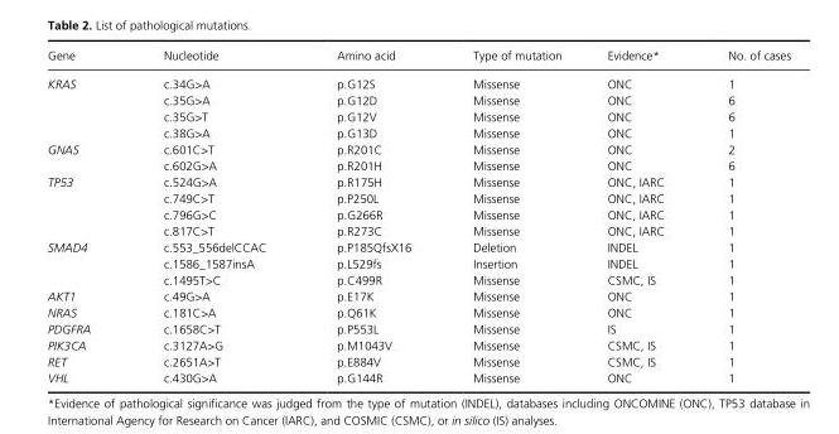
<table><thead><tr><td>Gene</td><td>Nucleotide</td><td>Amino acid</td><td>Type of mutation</td><td>Evidence*</td><td>No. of cases</td></tr></thead><tbody><tr><td rowspan="4">KRAS</td><td>c.34G&gt;A</td><td>p.G12S</td><td>Missense</td><td>ONC</td><td>1</td></tr><tr><td>c.35G&gt;A</td><td>p.G12D</td><td>Missense</td><td>ONC</td><td>6</td></tr><tr><td>c.35G&gt;T</td><td>p.G12V</td><td>Missense</td><td>ONC</td><td>6</td></tr><tr><td>c.38G&gt;A</td><td>p.G13D</td><td>Missense</td><td>ONC</td><td>1</td></tr><tr><td rowspan="2">GNAS</td><td>c.601C&gt;T</td><td>p.R201C</td><td>Missense</td><td>ONC</td><td>2</td></tr><tr><td>c.602G&gt;A</td><td>p.R201H</td><td>Missense</td><td>ONC</td><td>6</td></tr><tr><td rowspan="4">TP53</td><td>c.524G&gt;A</td><td>p.R175H</td><td>Missense</td><td>ONC, IARC</td><td>1</td></tr><tr><td>c.749C&gt;T</td><td>p.P250L</td><td>Missense</td><td>ONC, IARC</td><td>1</td></tr><tr><td>c.796G&gt;C</td><td>p.G266R</td><td>Missense</td><td>ONC, IARC</td><td>1</td></tr><tr><td>c.817C&gt;T</td><td>p.R273C</td><td>Missense</td><td>ONC, IARC</td><td>1</td></tr><tr><td rowspan="3">SMAD4</td><td>c.553_556delCCAC</td><td>p.P185QfsX16</td><td>Deletion</td><td>INDEL</td><td>1</td></tr><tr><td>c.1586_1587insA</td><td>p.L529fs</td><td>Insertion</td><td>INDEL</td><td>1</td></tr><tr><td>c.1495T&gt;C</td><td>p.C499R</td><td>Missense</td><td>CSMC, IS</td><td>1</td></tr><tr><td>AKT1</td><td>c.49G&gt;A</td><td>p.E17K</td><td>Missense</td><td>ONC</td><td>1</td></tr><tr><td>NRAS</td><td>c.181C&gt;A</td><td>p.Q61K</td><td>Missense</td><td>ONC</td><td>1</td></tr><tr><td>PDGFRA</td><td>c.1658C&gt;T</td><td>p.P553L</td><td>Missense</td><td>IS</td><td>1</td></tr><tr><td>PIK3CA</td><td>c.3127A&gt;G</td><td>p.M1043V</td><td>Missense</td><td>CSMC, IS</td><td>1</td></tr><tr><td>RET</td><td>c.2651A&gt;T</td><td>p.E884V</td><td>Missense</td><td>CSMC, IS</td><td>1</td></tr><tr><td>VHL</td><td>c.430G&gt;A</td><td>p.G144R</td><td>Missense</td><td>ONC</td><td>1</td></tr></tbody></table>